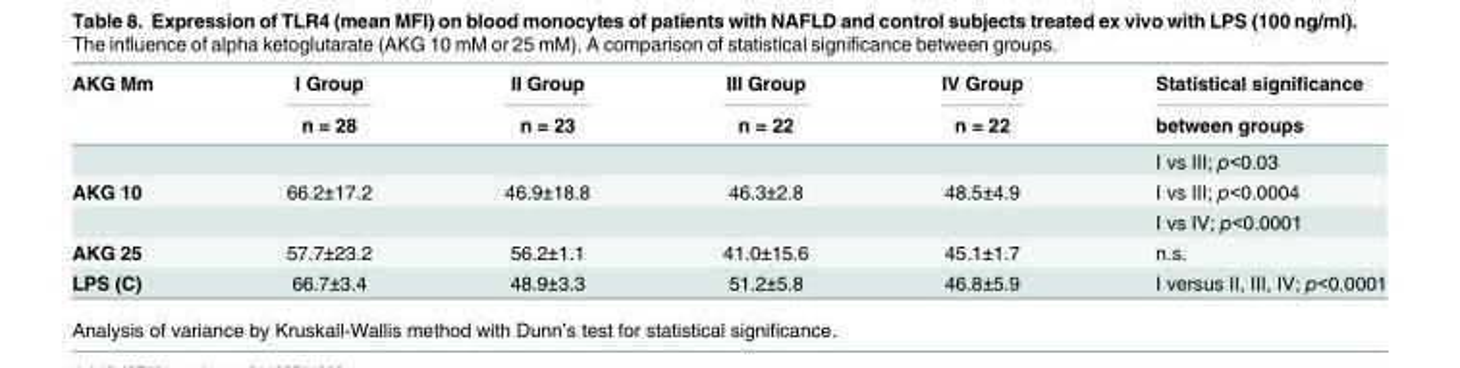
<table><thead><tr><td rowspan="2">AKG Mm</td><td rowspan="2">I Group n = 28</td><td rowspan="2">II Group n = 23</td><td rowspan="2">III Group n = 22</td><td rowspan="2">IV Group n = 22</td><td rowspan="2">Statistical significance between groups</td></tr><tr></tr></thead><tbody><tr><td></td><td></td><td></td><td></td><td></td><td>I vs III; p&lt;0.03</td></tr><tr><td rowspan="2">AKG 10</td><td>66.2±17.2</td><td>46.9±18.8</td><td>46.3±2.8</td><td>48.5±4.9</td><td>I vs III; p&lt;0.0004</td></tr><tr><td></td><td></td><td></td><td></td><td>I vs IV; p&lt;0.0001</td></tr><tr><td>AKG 25</td><td>57.7±23.2</td><td>56.2±1.1</td><td>41.0±15.6</td><td>45.1±1.7</td><td>n.s.</td></tr><tr><td>LPS (C)</td><td>66.7±3.4</td><td>48.9±3.3</td><td>51.2±5.8</td><td>46.8±5.9</td><td>I versus II, III, IV; p&lt;0.0001</td></tr></tbody></table>